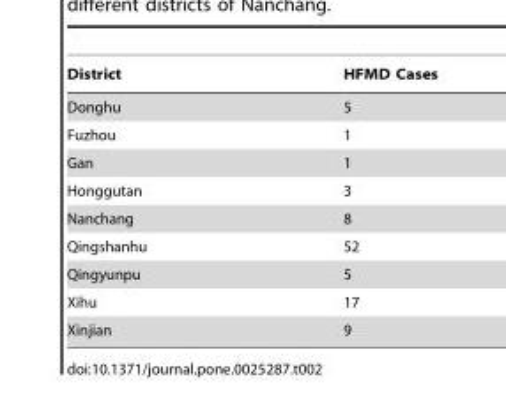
<table><thead><tr><td>District</td><td>HFMD Cases</td></tr></thead><tbody><tr><td>Donghu</td><td>5</td></tr><tr><td>Fuzhou</td><td>1</td></tr><tr><td>Gan</td><td>1</td></tr><tr><td>Honggutan</td><td>3</td></tr><tr><td>Nanchang</td><td>8</td></tr><tr><td>Qingshanhu</td><td>52</td></tr><tr><td>Qingyunpu</td><td>5</td></tr><tr><td>Xihu</td><td>17</td></tr><tr><td>Xinjian</td><td>9</td></tr></tbody></table>